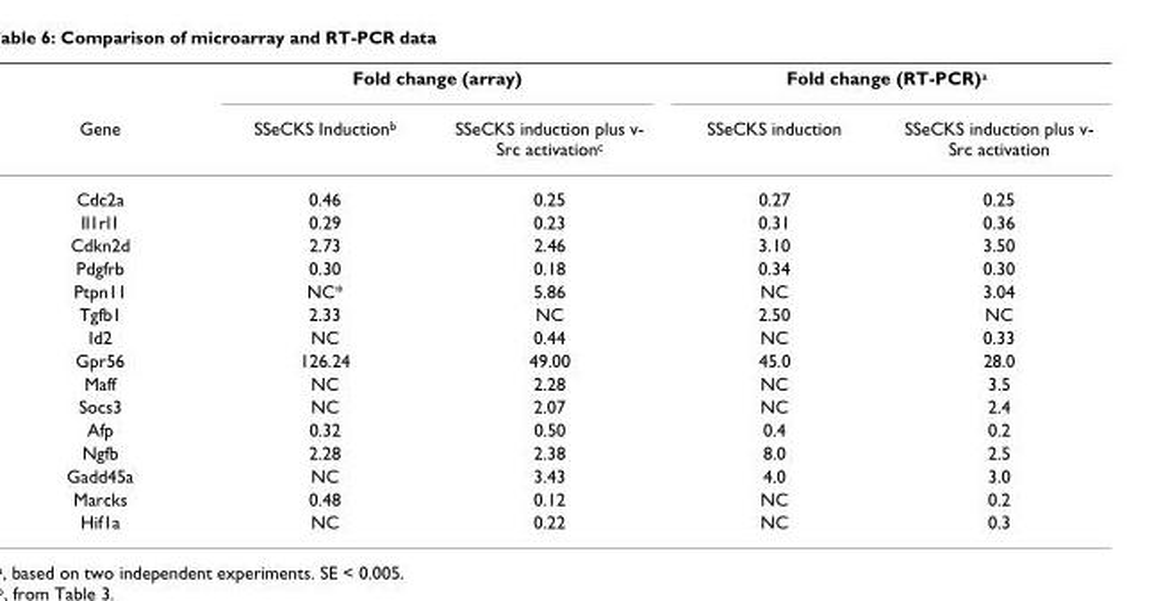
<table><thead><tr><td rowspan="2">Gene</td><td colspan="2">Fold change (array)</td><td colspan="2">Fold change (RT-PCR)a</td></tr><tr><td>SSeCKS Inductionb</td><td>SSeCKS induction plus v- Src activationc</td><td>SSeCKS induction</td><td>SSeCKS induction plus v- Src activation</td></tr></thead><tbody><tr><td>Cdc2a</td><td>0.46</td><td>0.25</td><td>0.27</td><td>0.25</td></tr><tr><td>Il1rl1</td><td>0.29</td><td>0.23</td><td>0.31</td><td>0.36</td></tr><tr><td>Cdkn2d</td><td>2.73</td><td>2.46</td><td>3.10</td><td>3.50</td></tr><tr><td>Pdgfrb</td><td>0.30</td><td>0.18</td><td>0.34</td><td>0.30</td></tr><tr><td>Ptpn11</td><td>NC*</td><td>5.86</td><td>NC</td><td>3.04</td></tr><tr><td>Tgfb1</td><td>2.33</td><td>NC</td><td>2.50</td><td>NC</td></tr><tr><td>Id2</td><td>NC</td><td>0.44</td><td>NC</td><td>0.33</td></tr><tr><td>Gpr56</td><td>126.24</td><td>49.00</td><td>45.0</td><td>28.0</td></tr><tr><td>Maff</td><td>NC</td><td>2.28</td><td>NC</td><td>3.5</td></tr><tr><td>Socs3</td><td>NC</td><td>2.07</td><td>NC</td><td>2.4</td></tr><tr><td>Afp</td><td>0.32</td><td>0.50</td><td>0.4</td><td>0.2</td></tr><tr><td>Ngfb</td><td>2.28</td><td>2.38</td><td>8.0</td><td>2.5</td></tr><tr><td>Gadd45a</td><td>NC</td><td>3.43</td><td>4.0</td><td>3.0</td></tr><tr><td>Marcks</td><td>0.48</td><td>0.12</td><td>NC</td><td>0.2</td></tr><tr><td>Hif1a</td><td>NC</td><td>0.22</td><td>NC</td><td>0.3</td></tr></tbody></table>